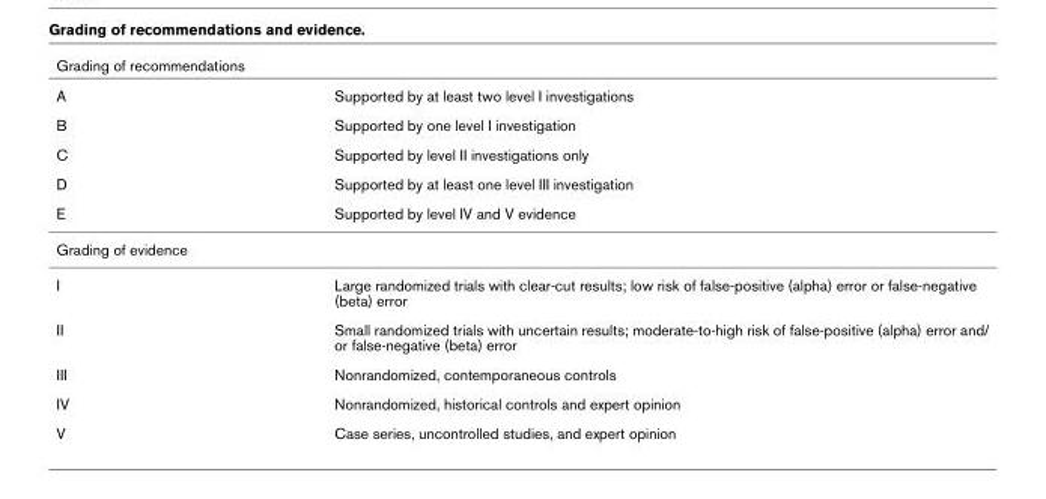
<table><thead><tr><td colspan="2">Grading of recommendations</td></tr><tr><td>A</td><td>Supported by at least two level I investigations</td></tr></thead><tbody><tr><td>B</td><td>Supported by one level I investigation</td></tr><tr><td>C</td><td>Supported by level II investigations only</td></tr><tr><td>D</td><td>Supported by at least one level III investigation</td></tr><tr><td>E</td><td>Supported by level IV and V evidence</td></tr><tr><td colspan="2">Grading of evidence</td></tr><tr><td>I</td><td>Large randomized trials with clear-cut results; low risk of false-positive (alpha) error or false-negative (beta) error</td></tr><tr><td>II</td><td>Small randomized trials with uncertain results; moderate-to-high risk of false-positive (alpha) error and/ or false-negative (beta) error</td></tr><tr><td>III</td><td>Nonrandomized, contemporaneous controls</td></tr><tr><td>IV</td><td>Nonrandomized, historical controls and expert opinion</td></tr><tr><td>V</td><td>Case series, uncontrolled studies, and expert opinion</td></tr></tbody></table>